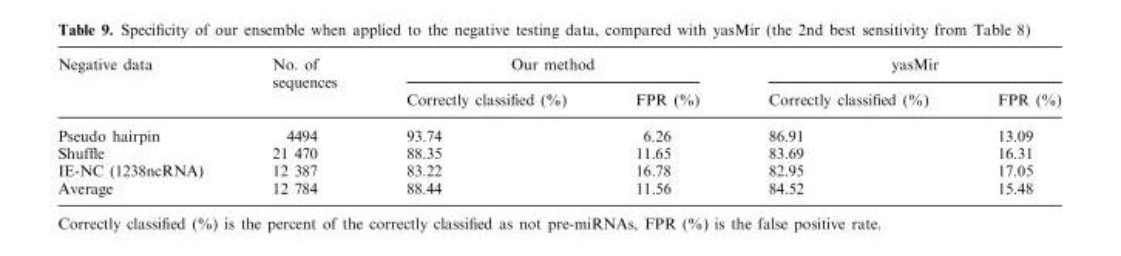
<table><thead><tr><td rowspan="2">Negative data</td><td rowspan="2">No. of sequences</td><td colspan="2">Our method</td><td colspan="2">yasMir</td></tr><tr><td>Correctly classified (%)</td><td>FPR (%)</td><td>Correctly classified (%)</td><td>FPR (%)</td></tr></thead><tbody><tr><td>Pseudo hairpin</td><td>4494</td><td>93.74</td><td>6.26</td><td>86.91</td><td>13.09</td></tr><tr><td>Shuffle</td><td>21 470</td><td>88.35</td><td>11.65</td><td>83.69</td><td>16.31</td></tr><tr><td>IE-NC (1238ncRNA)</td><td>12 387</td><td>83.22</td><td>16.78</td><td>82.95</td><td>17.05</td></tr><tr><td>Average</td><td>12 784</td><td>88.44</td><td>11.56</td><td>84.52</td><td>15.48</td></tr></tbody></table>